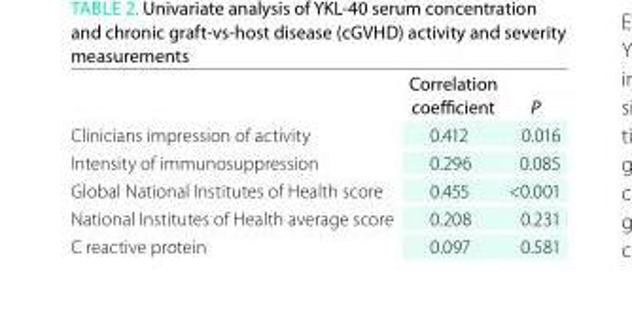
<table><thead><tr><td></td><td>Correlation coefficient</td><td>P</td></tr></thead><tbody><tr><td>Clinicians impression of activity</td><td>0.412</td><td>0.016</td></tr><tr><td>Intensity of immunosuppression</td><td>0.296</td><td>0.085</td></tr><tr><td>Global National Institutes of Health score</td><td>0.455</td><td>&lt;0.001</td></tr><tr><td>National Institutes of Health average score</td><td>0.208</td><td>0.231</td></tr><tr><td>C reactive protein</td><td>0.097</td><td>0.581</td></tr></tbody></table>